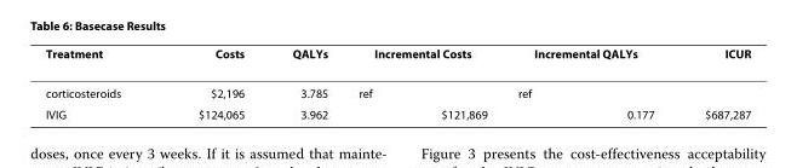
<table><thead><tr><td>Treatment</td><td>Costs</td><td>QALYs</td><td>Incremental Costs</td><td>Incremental QALYs</td><td>ICUR</td></tr></thead><tbody><tr><td>corticosteroids</td><td>$2,196</td><td>3.785</td><td>ref</td><td>ref</td><td></td></tr><tr><td>IVIG</td><td>$124,065</td><td>3.962</td><td>$121,869</td><td>0.177</td><td>$687,287</td></tr></tbody></table>